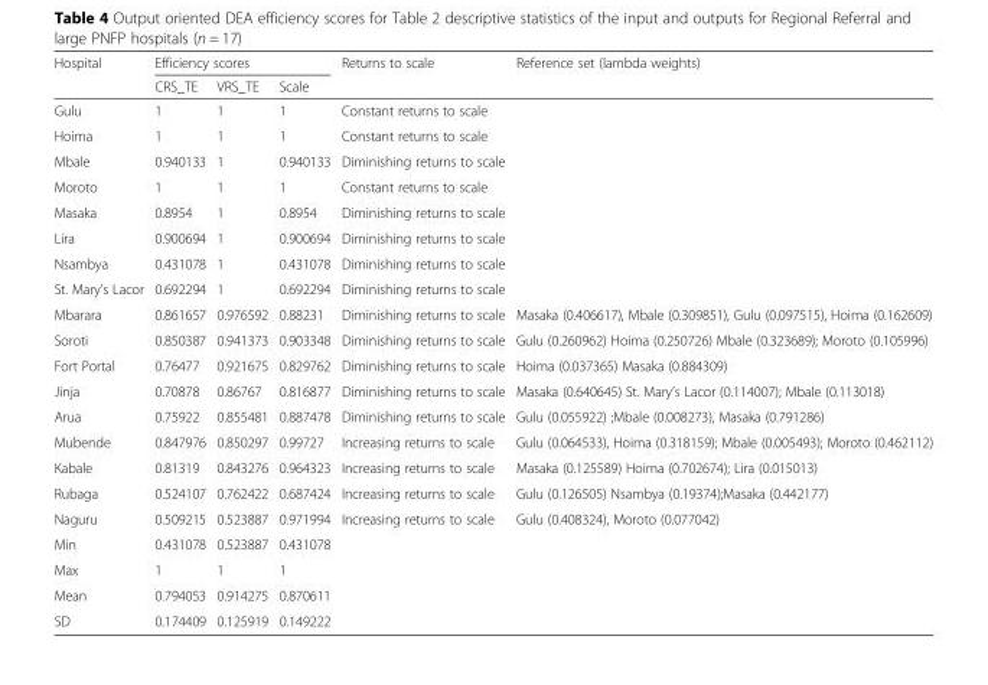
<table><thead><tr><td rowspan="2">Hospital</td><td colspan="3">Efficiency scores</td><td rowspan="2">Returns to scale</td><td rowspan="2">Reference set (lambda weights)</td></tr><tr><td>CRS_TE</td><td>VRS_TE</td><td>Scale</td></tr></thead><tbody><tr><td>Gulu</td><td>1</td><td>1</td><td>1</td><td>Constant returns to scale</td><td></td></tr><tr><td>Hoima</td><td>1</td><td>1</td><td>1</td><td>Constant returns to scale</td><td></td></tr><tr><td>Mbale</td><td>0.940133</td><td>1</td><td>0.940133</td><td>Diminishing returns to scale</td><td></td></tr><tr><td>Moroto</td><td>1</td><td>1</td><td>1</td><td>Constant returns to scale</td><td></td></tr><tr><td>Masaka</td><td>0.8954</td><td>1</td><td>0.8954</td><td>Diminishing returns to scale</td><td></td></tr><tr><td>Lira</td><td>0.900694</td><td>1</td><td>0.900694</td><td>Diminishing returns to scale</td><td></td></tr><tr><td>Nsambya</td><td>0.431078</td><td>1</td><td>0.431078</td><td>Diminishing returns to scale</td><td></td></tr><tr><td>St. Mary’s Lacor</td><td>0.692294</td><td>1</td><td>0.692294</td><td>Diminishing returns to scale</td><td></td></tr><tr><td>Mbarara</td><td>0.861657</td><td>0.976592</td><td>0.88231</td><td>Diminishing returns to scale</td><td>Masaka (0.406617), Mbale (0.309851), Gulu (0.097515), Hoima (0.162609)</td></tr><tr><td>Soroti</td><td>0.850387</td><td>0.941373</td><td>0.903348</td><td>Diminishing returns to scale</td><td>Gulu (0.260962) Hoima (0.250726) Mbale (0.323689); Moroto (0.105996)</td></tr><tr><td>Fort Portal</td><td>0.76477</td><td>0.921675</td><td>0.829762</td><td>Diminishing returns to scale</td><td>Hoima (0.037365) Masaka (0.884309)</td></tr><tr><td>Jinja</td><td>0.70878</td><td>0.86767</td><td>0.816877</td><td>Diminishing returns to scale</td><td>Masaka (0.640645) St. Mary’s Lacor (0.114007); Mbale (0.113018)</td></tr><tr><td>Arua</td><td>0.75922</td><td>0.855481</td><td>0.887478</td><td>Diminishing returns to scale</td><td>Gulu (0.055922) ;Mbale (0.008273), Masaka (0.791286)</td></tr><tr><td>Mubende</td><td>0.847976</td><td>0.850297</td><td>0.99727</td><td>Increasing returns to scale</td><td>Gulu (0.064533), Hoima (0.318159); Mbale (0.005493); Moroto (0.462112)</td></tr><tr><td>Kabale</td><td>0.81319</td><td>0.843276</td><td>0.964323</td><td>Increasing returns to scale</td><td>Masaka (0.125589) Hoima (0.702674); Lira (0.015013)</td></tr><tr><td>Rubaga</td><td>0.524107</td><td>0.762422</td><td>0.687424</td><td>Increasing returns to scale</td><td>Gulu (0.126505) Nsambya (0.19374);Masaka (0.442177)</td></tr><tr><td>Naguru</td><td>0.509215</td><td>0.523887</td><td>0.971994</td><td>Increasing returns to scale</td><td>Gulu (0.408324), Moroto (0.077042)</td></tr><tr><td>Min</td><td>0.431078</td><td>0.523887</td><td>0.431078</td><td></td><td></td></tr><tr><td>Max</td><td>1</td><td>1</td><td>1</td><td></td><td></td></tr><tr><td>Mean</td><td>0.794053</td><td>0.914275</td><td>0.870611</td><td></td><td></td></tr><tr><td>SD</td><td>0.174409</td><td>0.125919</td><td>0.149222</td><td></td><td></td></tr></tbody></table>